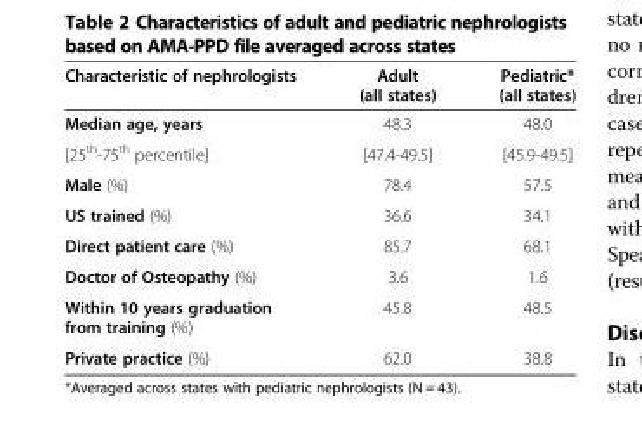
<table><thead><tr><td>Characteristic of nephrologists</td><td>Adult (all states)</td><td>Pediatric* (all states)</td></tr></thead><tbody><tr><td>Median age, years</td><td>48.3</td><td>48.0</td></tr><tr><td>[25<sup>th</sup>-75<sup>th</sup> percentile]</td><td>[47.4-49.5]</td><td>[45.9-49.5]</td></tr><tr><td>Male (%)</td><td>78.4</td><td>57.5</td></tr><tr><td>US trained (%)</td><td>36.6</td><td>34.1</td></tr><tr><td>Direct patient care (%)</td><td>85.7</td><td>68.1</td></tr><tr><td>Doctor of Osteopathy (%)</td><td>3.6</td><td>1.6</td></tr><tr><td>Within 10 years graduation from training (%)</td><td>45.8</td><td>48.5</td></tr><tr><td>Private practice (%)</td><td>62.0</td><td>38.8</td></tr></tbody></table>